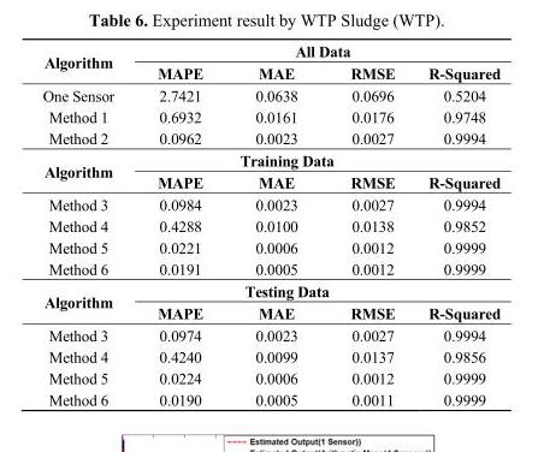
<table><tbody><tr><td rowspan="2">Algorithm</td><td colspan="4">All Data</td></tr><tr><td>MAPE</td><td>MAE</td><td>RMSE</td><td>R-Squared</td></tr><tr><td>One Sensor</td><td>2.7421</td><td>0.0638</td><td>0.0696</td><td>0.5204</td></tr><tr><td>Method 1</td><td>0.6932</td><td>0.0161</td><td>0.0176</td><td>0.9748</td></tr><tr><td>Method 2</td><td>0.0962</td><td>0.0023</td><td>0.0027</td><td>0.9994</td></tr><tr><td rowspan="2">Algorithm</td><td colspan="3">Training Data</td><td></td></tr><tr><td>MAPE</td><td>MAE</td><td>RMSE</td><td>R-Squared</td></tr><tr><td>Method 3</td><td>0.0984</td><td>0.0023</td><td>0.0027</td><td>0.9994</td></tr><tr><td>Method 4</td><td>0.4288</td><td>0.0100</td><td>0.0138</td><td>0.9852</td></tr><tr><td>Method 5</td><td>0.0221</td><td>0.0006</td><td>0.0012</td><td>0.9999</td></tr><tr><td>Method 6</td><td>0.0191</td><td>0.0005</td><td>0.0012</td><td>0.9999</td></tr><tr><td rowspan="2">Algorithm</td><td colspan="3">Testing Data</td><td></td></tr><tr><td>MAPE</td><td>MAE</td><td>RMSE</td><td>R-Squared</td></tr><tr><td>Method 3</td><td>0.0974</td><td>0.0023</td><td>0.0027</td><td>0.9994</td></tr><tr><td>Method 4</td><td>0.4240</td><td>0.0099</td><td>0.0137</td><td>0.9856</td></tr><tr><td>Method 5</td><td>0.0224</td><td>0.0006</td><td>0.0012</td><td>0.9999</td></tr><tr><td>Method 6</td><td>0.0190</td><td>0.0005</td><td>0.0011</td><td>0.9999</td></tr></tbody></table>